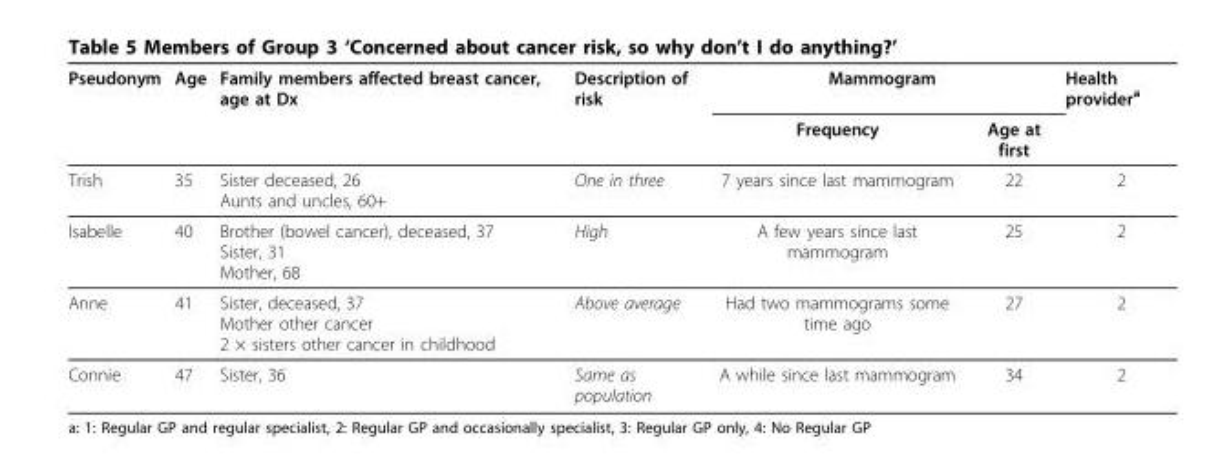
<table><thead><tr><td rowspan="2">Pseudonym</td><td rowspan="2">Age</td><td rowspan="2">Family members affected breast cancer, age at Dx</td><td rowspan="2">Description of risk</td><td colspan="2">Mammogram</td><td rowspan="2">Health provider<sup>a</sup></td></tr><tr><td>Frequency</td><td>Age at first</td></tr></thead><tbody><tr><td>Trish</td><td>35</td><td>Sister deceased, 26 Aunts and uncles, 60+</td><td>One in three</td><td>7 years since last mammogram</td><td>22</td><td>2</td></tr><tr><td>Isabelle</td><td>40</td><td>Brother (bowel cancer), deceased, 37 Sister, 31 Mother, 68</td><td>High</td><td>A few years since last mammogram</td><td>25</td><td>2</td></tr><tr><td>Anne</td><td>41</td><td>Sister, deceased, 37 Mother other cancer 2 × sisters other cancer in childhood</td><td>Above average</td><td>Had two mammograms some time ago</td><td>27</td><td>2</td></tr><tr><td>Connie</td><td>47</td><td>Sister, 36</td><td>Same as population</td><td>A while since last mammogram</td><td>34</td><td>2</td></tr></tbody></table>